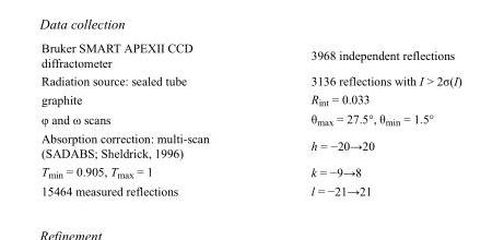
<table><tbody><tr><td>Bruker SMART APEXII CCD diffractometer</td><td>3968 independent reflections</td></tr><tr><td>Radiation source: sealed tube</td><td>3136 reflections with I &gt; 2σ(I)</td></tr><tr><td>graphite</td><td>R<sub>int</sub> = 0.033</td></tr><tr><td>φ and ω scans</td><td>θ<sub>max</sub> = 27.5°, θ<sub>min</sub> = 1.5°</td></tr><tr><td>Absorption correction: multi-scan (SADABS; Sheldrick, 1996)</td><td>h = −20→20</td></tr><tr><td>T<sub>min</sub> = 0.905, T<sub>max</sub> = 1</td><td>k = −9→8</td></tr><tr><td>15464 measured reflections</td><td>l = −21→21</td></tr></tbody></table>